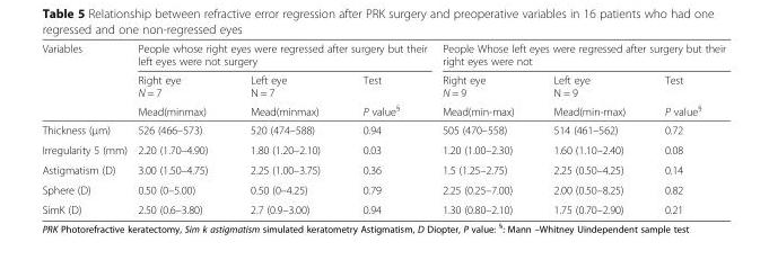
<table><thead><tr><td rowspan="3">Variables</td><td colspan="3">People whose right eyes were regressed after surgery but their left eyes were not surgery</td><td colspan="3">People Whose left eyes were regressed after surgery but their right eyes were not</td></tr><tr><td rowspan="2">Right eye N = 7 Mead(minmax)</td><td rowspan="2">Left eye N = 7 Mead(minmax)</td><td rowspan="2">Test P value<sup>§</sup></td><td rowspan="2">Right eye N = 9 Mead(min-max)</td><td rowspan="2">Left eye N = 9 Mead(min-max)</td><td rowspan="2">Test P value<sup>§</sup></td></tr><tr></tr></thead><tbody><tr><td>Thickness (μm)</td><td>526 (466–573)</td><td>520 (474–588)</td><td>0.94</td><td>505 (470–558)</td><td>514 (461–562)</td><td>0.72</td></tr><tr><td>Irregularity 5 (mm)</td><td>2.20 (1.70–4.90)</td><td>1.80 (1.20–2.10)</td><td>0.03</td><td>1.20 (1.00–2.30)</td><td>1.60 (1.10–2.40)</td><td>0.08</td></tr><tr><td>Astigmatism (D)</td><td>3.00 (1.50–4.75)</td><td>2.25 (1.00–3.75)</td><td>0.36</td><td>1.5 (1.25–2.75)</td><td>2.25 (0.50–4.25)</td><td>0.14</td></tr><tr><td>Sphere (D)</td><td>0.50 (0–5.00)</td><td>0.50 (0–4.25)</td><td>0.79</td><td>2.25 (0.25–7.00)</td><td>2.00 (0.50–8.25)</td><td>0.82</td></tr><tr><td>SimK (D)</td><td>2.50 (0.6–3.80)</td><td>2.7 (0.9–3.00)</td><td>0.94</td><td>1.30 (0.80–2.10)</td><td>1.75 (0.70–2.90)</td><td>0.21</td></tr></tbody></table>